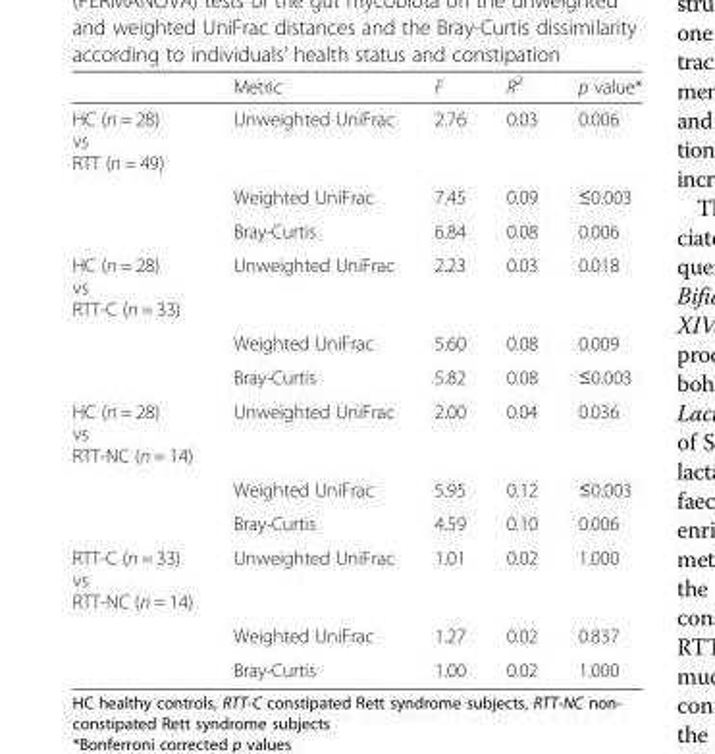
<table><thead><tr><td></td><td>Metric</td><td>F</td><td>R<sup>2</sup></td><td>p value*</td></tr></thead><tbody><tr><td rowspan="3">HC (n = 28) vs RTT (n = 49)</td><td>Unweighted UniFrac</td><td>2.76</td><td>0.03</td><td>0.006</td></tr><tr><td>Weighted UniFrac</td><td>7.45</td><td>0.09</td><td>≤0.003</td></tr><tr><td>Bray-Curtis</td><td>6.84</td><td>0.08</td><td>0.006</td></tr><tr><td rowspan="3">HC (n = 28) vs RTT-C (n = 33)</td><td>Unweighted UniFrac</td><td>2.23</td><td>0.03</td><td>0.018</td></tr><tr><td>Weighted UniFrac</td><td>5.60</td><td>0.08</td><td>0.009</td></tr><tr><td>Bray-Curtis</td><td>5.82</td><td>0.08</td><td>≤0.003</td></tr><tr><td rowspan="3">HC (n = 28) vs RTT-NC (n = 14)</td><td>Unweighted UniFrac</td><td>2.00</td><td>0.04</td><td>0.036</td></tr><tr><td>Weighted UniFrac</td><td>5.95</td><td>0.12</td><td>≤0.003</td></tr><tr><td>Bray-Curtis</td><td>4.59</td><td>0.10</td><td>0.006</td></tr><tr><td rowspan="3">RTT-C (n = 33) vs RTT-NC (n = 14)</td><td>Unweighted UniFrac</td><td>1.01</td><td>0.02</td><td>1.000</td></tr><tr><td>Weighted UniFrac</td><td>1.27</td><td>0.02</td><td>0.837</td></tr><tr><td>Bray-Curtis</td><td>1.00</td><td>0.02</td><td>1.000</td></tr></tbody></table>